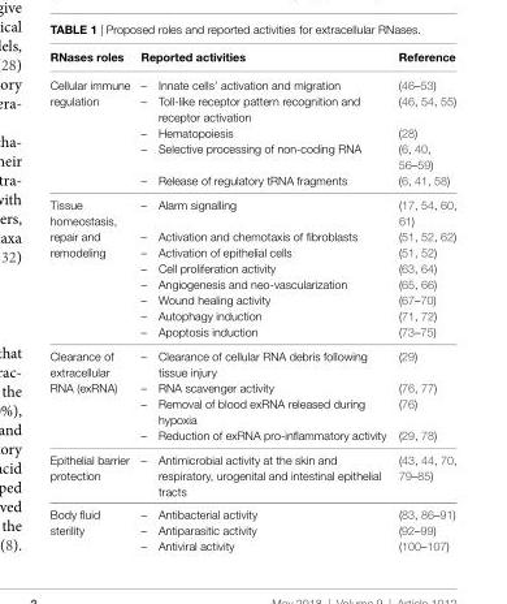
<table><thead><tr><td>RNases roles</td><td>Reported activities</td><td>Reference</td></tr></thead><tbody><tr><td rowspan="5">Cellular immune regulation</td><td>– Innate cells’ activation and migration</td><td>(46–53)</td></tr><tr><td>– Toll-like receptor pattern recognition and receptor activation</td><td>(46, 54, 55)</td></tr><tr><td>– Hematopoiesis</td><td>(28)</td></tr><tr><td>– Selective processing of non-coding RNA</td><td>(6, 40, 56–59)</td></tr><tr><td>– Release of regulatory tRNA fragments</td><td>(6, 41, 58)</td></tr><tr><td rowspan="8">Tissue homeostasis, repair and remodeling</td><td>– Alarm signalling</td><td>(17, 54, 60, 61)</td></tr><tr><td>– Activation and chemotaxis of fibroblasts</td><td>(51, 52, 62)</td></tr><tr><td>– Activation of epithelial cells</td><td>(51, 52)</td></tr><tr><td>– Cell proliferation activity</td><td>(63, 64)</td></tr><tr><td>– Angiogenesis and neo-vascularization</td><td>(65, 66)</td></tr><tr><td>– Wound healing activity</td><td>(67–70)</td></tr><tr><td>– Autophagy induction</td><td>(71, 72)</td></tr><tr><td>– Apoptosis induction</td><td>(73–75)</td></tr><tr><td rowspan="4">Clearance of extracellular RNA (exRNA)</td><td>– Clearance of cellular RNA debris following tissue injury</td><td>(29)</td></tr><tr><td>– RNA scavenger activity</td><td>(76, 77)</td></tr><tr><td>– Removal of blood exRNA released during hypoxia</td><td>(76)</td></tr><tr><td>– Reduction of exRNA pro-inflammatory activity</td><td>(29, 78)</td></tr><tr><td>Epithelial barrier protection</td><td>– Antimicrobial activity at the skin and respiratory, urogenital and intestinal epithelial tracts</td><td>(43, 44, 70, 79–85)</td></tr><tr><td rowspan="3">Body fluid sterility</td><td>– Antibacterial activity</td><td>(83, 86–91)</td></tr><tr><td>– Antiparasitic activity</td><td>(92–99)</td></tr><tr><td>– Antiviral activity</td><td>(100–107)</td></tr></tbody></table>